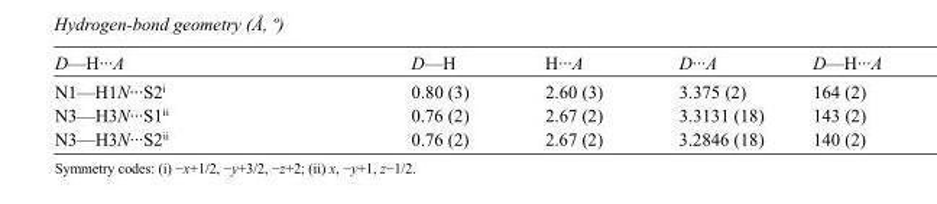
<table><tbody><tr><td>D—H···A</td><td>D—H</td><td>H···A</td><td>D···A</td><td>D—H···A</td></tr><tr><td>N1—H1N···S2<sup>i</sup></td><td>0.80 (3)</td><td>2.60 (3)</td><td>3.375 (2)</td><td>164 (2)</td></tr><tr><td>N3—H3N···S1<sup>ii</sup></td><td>0.76 (2)</td><td>2.67 (2)</td><td>3.3131 (18)</td><td>143 (2)</td></tr><tr><td>N3—H3N···S2<sup>ii</sup></td><td>0.76 (2)</td><td>2.67 (2)</td><td>3.2846 (18)</td><td>140 (2)</td></tr></tbody></table>